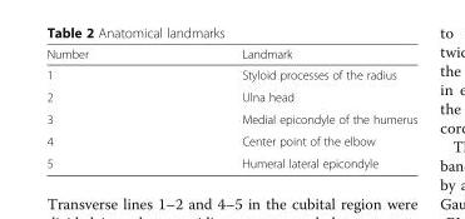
<table><thead><tr><td>Number</td><td>Landmark</td></tr></thead><tbody><tr><td>1</td><td>Styloid processes of the radius</td></tr><tr><td>2</td><td>Ulna head</td></tr><tr><td>3</td><td>Medial epicondyle of the humerus</td></tr><tr><td>4</td><td>Center point of the elbow</td></tr><tr><td>5</td><td>Humeral lateral epicondyle</td></tr></tbody></table>